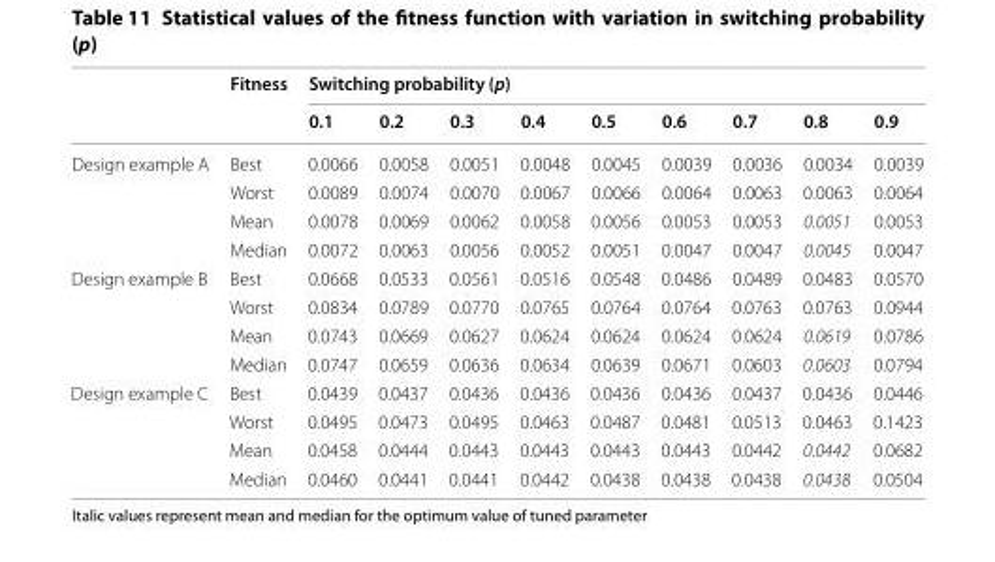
<table><thead><tr><td rowspan="2"></td><td rowspan="2">Fitness</td><td colspan="9">Switching probability (p)</td></tr><tr><td>0.1</td><td>0.2</td><td>0.3</td><td>0.4</td><td>0.5</td><td>0.6</td><td>0.7</td><td>0.8</td><td>0.9</td></tr></thead><tbody><tr><td rowspan="4">Design example A</td><td>Best</td><td>0.0066</td><td>0.0058</td><td>0.0051</td><td>0.0048</td><td>0.0045</td><td>0.0039</td><td>0.0036</td><td>0.0034</td><td>0.0039</td></tr><tr><td>Worst</td><td>0.0089</td><td>0.0074</td><td>0.0070</td><td>0.0067</td><td>0.0066</td><td>0.0064</td><td>0.0063</td><td>0.0063</td><td>0.0064</td></tr><tr><td>Mean</td><td>0.0078</td><td>0.0069</td><td>0.0062</td><td>0.0058</td><td>0.0056</td><td>0.0053</td><td>0.0053</td><td>0.0051</td><td>0.0053</td></tr><tr><td>Median</td><td>0.0072</td><td>0.0063</td><td>0.0056</td><td>0.0052</td><td>0.0051</td><td>0.0047</td><td>0.0047</td><td>0.0045</td><td>0.0047</td></tr><tr><td rowspan="4">Design example B</td><td>Best</td><td>0.0668</td><td>0.0533</td><td>0.0561</td><td>0.0516</td><td>0.0548</td><td>0.0486</td><td>0.0489</td><td>0.0483</td><td>0.0570</td></tr><tr><td>Worst</td><td>0.0834</td><td>0.0789</td><td>0.0770</td><td>0.0765</td><td>0.0764</td><td>0.0764</td><td>0.0763</td><td>0.0763</td><td>0.0944</td></tr><tr><td>Mean</td><td>0.0743</td><td>0.0669</td><td>0.0627</td><td>0.0624</td><td>0.0624</td><td>0.0624</td><td>0.0624</td><td>0.0619</td><td>0.0786</td></tr><tr><td>Median</td><td>0.0747</td><td>0.0659</td><td>0.0636</td><td>0.0634</td><td>0.0639</td><td>0.0671</td><td>0.0603</td><td>0.0603</td><td>0.0794</td></tr><tr><td rowspan="4">Design example C</td><td>Best</td><td>0.0439</td><td>0.0437</td><td>0.0436</td><td>0.0436</td><td>0.0436</td><td>0.0436</td><td>0.0437</td><td>0.0436</td><td>0.0446</td></tr><tr><td>Worst</td><td>0.0495</td><td>0.0473</td><td>0.0495</td><td>0.0463</td><td>0.0487</td><td>0.0481</td><td>0.0513</td><td>0.0463</td><td>0.1423</td></tr><tr><td>Mean</td><td>0.0458</td><td>0.0444</td><td>0.0443</td><td>0.0443</td><td>0.0443</td><td>0.0443</td><td>0.0442</td><td>0.0442</td><td>0.0682</td></tr><tr><td>Median</td><td>0.0460</td><td>0.0441</td><td>0.0441</td><td>0.0442</td><td>0.0438</td><td>0.0438</td><td>0.0438</td><td>0.0438</td><td>0.0504</td></tr></tbody></table>